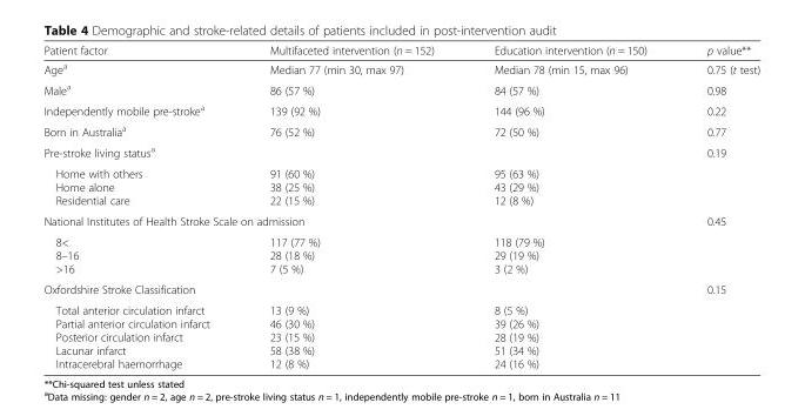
<table><thead><tr><td>Patient factor</td><td>Multifaceted intervention (n = 152)</td><td>Education intervention (n = 150)</td><td>p value**</td></tr></thead><tbody><tr><td>Age<sup>a</sup></td><td>Median 77 (min 30, max 97)</td><td>Median 78 (min 15, max 96)</td><td>0.75 (t test)</td></tr><tr><td>Male<sup>a</sup></td><td>86 (57 %)</td><td>84 (57 %)</td><td>0.98</td></tr><tr><td>Independently mobile pre-stroke<sup>a</sup></td><td>139 (92 %)</td><td>144 (96 %)</td><td>0.22</td></tr><tr><td>Born in Australia<sup>a</sup></td><td>76 (52 %)</td><td>72 (50 %)</td><td>0.77</td></tr><tr><td>Pre-stroke living status<sup>a</sup></td><td></td><td></td><td>0.19</td></tr><tr><td>Home with others Home alone Residential care</td><td>91 (60 %) 38 (25 %) 22 (15 %)</td><td>95 (63 %) 43 (29 %) 12 (8 %)</td><td></td></tr><tr><td colspan="3">National Institutes of Health Stroke Scale on admission</td><td>0.45</td></tr><tr><td>8&lt; 8–16 &gt;16</td><td>117 (77 %) 28 (18 %) 7 (5 %)</td><td>118 (79 %) 29 (19 %) 3 (2 %)</td><td></td></tr><tr><td>Oxfordshire Stroke Classification</td><td></td><td></td><td>0.15</td></tr><tr><td>Total anterior circulation infarct Partial anterior circulation infarct Posterior circulation infarct Lacunar infarct Intracerebral haemorrhage</td><td>13 (9 %) 46 (30 %) 23 (15 %) 58 (38 %) 12 (8 %)</td><td>8 (5 %) 39 (26 %) 28 (19 %) 51 (34 %) 24 (16 %)</td><td></td></tr></tbody></table>